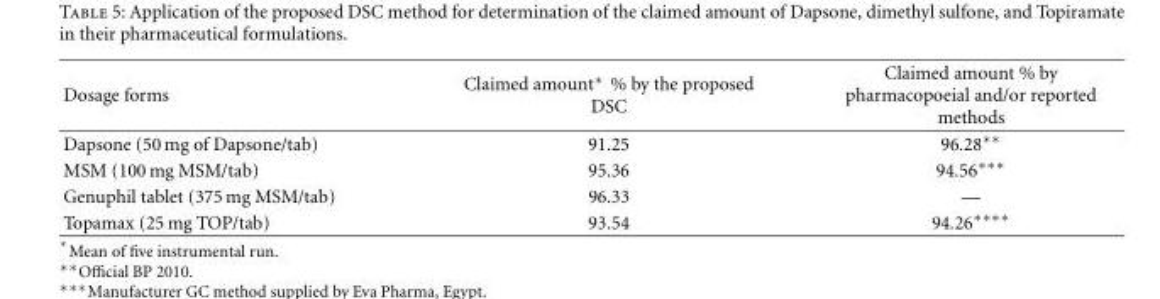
<table><thead><tr><td>Dosage forms</td><td>Claimed amount∗ % by the proposed DSC</td><td>Claimed amount % by pharmacopoeial and/or reported methods</td></tr></thead><tbody><tr><td>Dapsone (50 mg of Dapsone/tab)</td><td>91.25</td><td>96.28∗∗</td></tr><tr><td>MSM (100 mg MSM/tab)</td><td>95.36</td><td>94.56∗∗∗</td></tr><tr><td>Genuphil tablet (375 mg MSM/tab)</td><td>96.33</td><td>—</td></tr><tr><td>Topamax (25 mg TOP/tab)</td><td>93.54</td><td>94.26∗∗∗∗</td></tr></tbody></table>